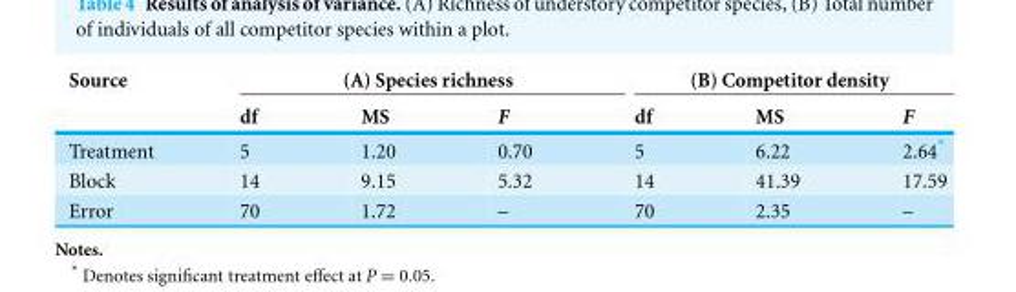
<table><thead><tr><td rowspan="2">Source</td><td colspan="3">(A) Species richness</td><td colspan="3">(B) Competitor density</td></tr><tr><td>df</td><td>MS</td><td>F</td><td>df</td><td>MS</td><td>F</td></tr></thead><tbody><tr><td>Treatment</td><td>5</td><td>1.20</td><td>0.70</td><td>5</td><td>6.22</td><td>2.64*</td></tr><tr><td>Block</td><td>14</td><td>9.15</td><td>5.32</td><td>14</td><td>41.39</td><td>17.59</td></tr><tr><td>Error</td><td>70</td><td>1.72</td><td>–</td><td>70</td><td>2.35</td><td>–</td></tr></tbody></table>